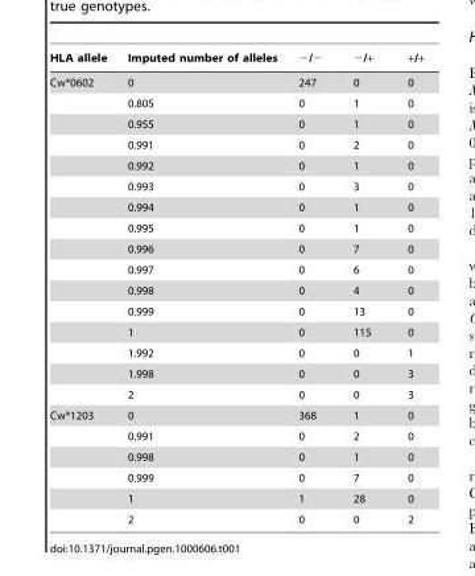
<table><thead><tr><td>HLA allele</td><td>Imputed number of alleles</td><td>−/−</td><td>−/+</td><td>+/+</td></tr></thead><tbody><tr><td rowspan="16">Cw*0602</td><td>0</td><td>247</td><td>0</td><td>0</td></tr><tr><td>0.805</td><td>0</td><td>1</td><td>0</td></tr><tr><td>0.955</td><td>0</td><td>1</td><td>0</td></tr><tr><td>0.991</td><td>0</td><td>2</td><td>0</td></tr><tr><td>0.992</td><td>0</td><td>1</td><td>0</td></tr><tr><td>0.993</td><td>0</td><td>3</td><td>0</td></tr><tr><td>0.994</td><td>0</td><td>1</td><td>0</td></tr><tr><td>0.995</td><td>0</td><td>1</td><td>0</td></tr><tr><td>0.996</td><td>0</td><td>7</td><td>0</td></tr><tr><td>0.997</td><td>0</td><td>6</td><td>0</td></tr><tr><td>0.998</td><td>0</td><td>4</td><td>0</td></tr><tr><td>0.999</td><td>0</td><td>13</td><td>0</td></tr><tr><td>1</td><td>0</td><td>115</td><td>0</td></tr><tr><td>1.992</td><td>0</td><td>0</td><td>1</td></tr><tr><td>1.998</td><td>0</td><td>0</td><td>3</td></tr><tr><td>2</td><td>0</td><td>0</td><td>3</td></tr><tr><td rowspan="6">Cw*1203</td><td>0</td><td>368</td><td>1</td><td>0</td></tr><tr><td>0.991</td><td>0</td><td>2</td><td>0</td></tr><tr><td>0.998</td><td>0</td><td>1</td><td>0</td></tr><tr><td>0.999</td><td>0</td><td>7</td><td>0</td></tr><tr><td>1</td><td>1</td><td>28</td><td>0</td></tr><tr><td>2</td><td>0</td><td>0</td><td>2</td></tr></tbody></table>